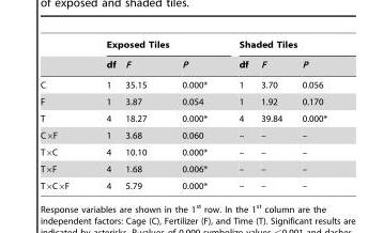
<table><thead><tr><td rowspan="2"></td><td colspan="3">Exposed Tiles</td><td colspan="3">Shaded Tiles</td></tr><tr><td>df</td><td>F</td><td>P</td><td>df</td><td>F</td><td>P</td></tr></thead><tbody><tr><td>C</td><td>1</td><td>35.15</td><td>0.000*</td><td>1</td><td>3.70</td><td>0.056</td></tr><tr><td>F</td><td>1</td><td>3.87</td><td>0.054</td><td>1</td><td>1.92</td><td>0.170</td></tr><tr><td>T</td><td>4</td><td>18.27</td><td>0.000*</td><td>4</td><td>39.84</td><td>0.000*</td></tr><tr><td>C×F</td><td>1</td><td>3.68</td><td>0.060</td><td>–</td><td>–</td><td>–</td></tr><tr><td>T×C</td><td>4</td><td>10.10</td><td>0.000*</td><td>–</td><td>–</td><td>–</td></tr><tr><td>T×F</td><td>4</td><td>1.68</td><td>0.006*</td><td>–</td><td>–</td><td>–</td></tr><tr><td>T×C×F</td><td>4</td><td>5.79</td><td>0.000*</td><td>–</td><td>–</td><td>–</td></tr></tbody></table>